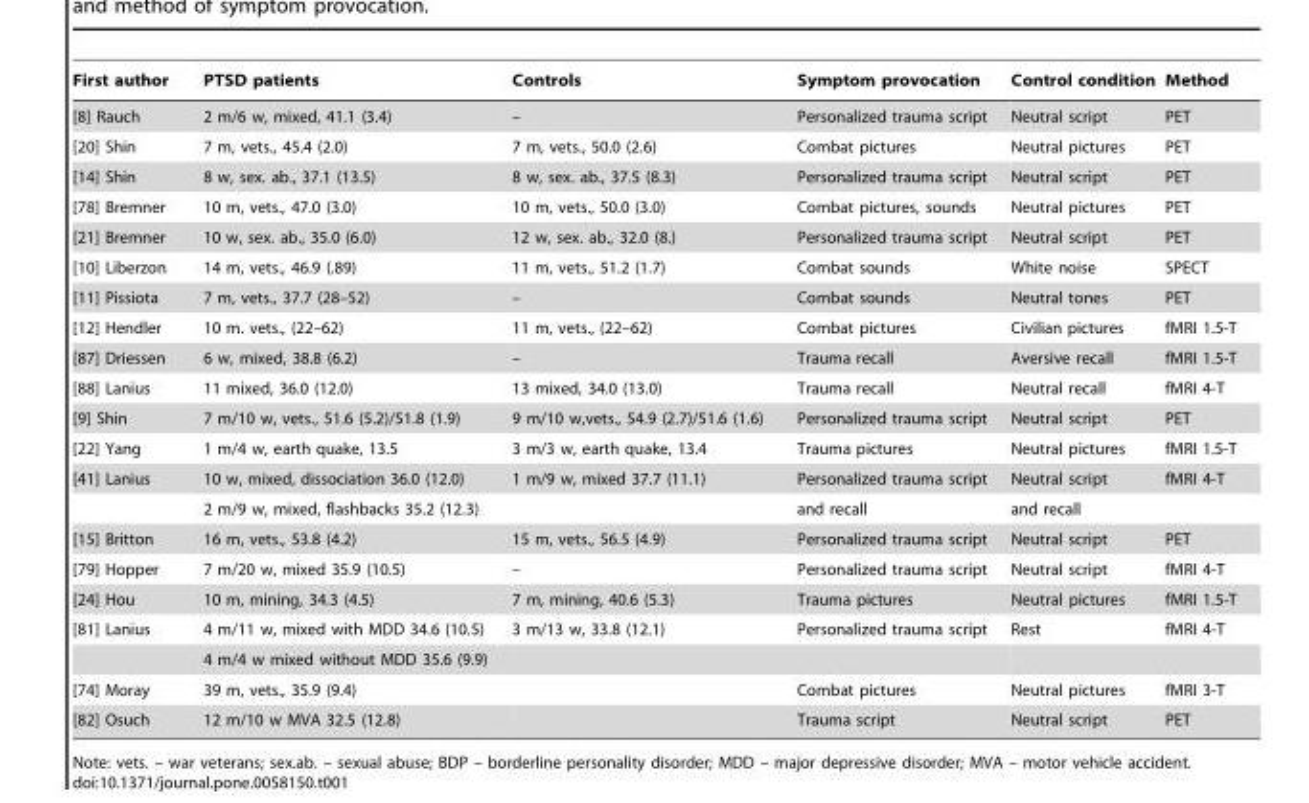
<table><thead><tr><td>First author</td><td>PTSD patients</td><td>Controls</td><td>Symptom provocation</td><td>Control condition</td><td>Method</td></tr></thead><tbody><tr><td>[8] Rauch</td><td>2 m/6 w, mixed, 41.1 (3.4)</td><td>–</td><td>Personalized trauma script</td><td>Neutral script</td><td>PET</td></tr><tr><td>[20] Shin</td><td>7 m, vets., 45.4 (2.0)</td><td>7 m, vets., 50.0 (2.6)</td><td>Combat pictures</td><td>Neutral pictures</td><td>PET</td></tr><tr><td>[14] Shin</td><td>8 w, sex. ab., 37.1 (13.5)</td><td>8 w, sex. ab., 37.5 (8.3)</td><td>Personalized trauma script</td><td>Neutral script</td><td>PET</td></tr><tr><td>[78] Bremner</td><td>10 m, vets., 47.0 (3.0)</td><td>10 m, vets., 50.0 (3.0)</td><td>Combat pictures, sounds</td><td>Neutral pictures</td><td>PET</td></tr><tr><td>[21] Bremner</td><td>10 w, sex. ab., 35.0 (6.0)</td><td>12 w, sex. ab., 32.0 (8.)</td><td>Personalized trauma script</td><td>Neutral script</td><td>PET</td></tr><tr><td>[10] Liberzon</td><td>14 m, vets., 46.9 (.89)</td><td>11 m, vets., 51.2 (1.7)</td><td>Combat sounds</td><td>White noise</td><td>SPECT</td></tr><tr><td>[11] Pissiota</td><td>7 m, vets., 37.7 (28–52)</td><td>–</td><td>Combat sounds</td><td>Neutral tones</td><td>PET</td></tr><tr><td>[12] Hendler</td><td>10 m. vets., (22–62)</td><td>11 m, vets., (22–62)</td><td>Combat pictures</td><td>Civilian pictures</td><td>fMRI 1.5-T</td></tr><tr><td>[87] Driessen</td><td>6 w, mixed, 38.8 (6.2)</td><td>–</td><td>Trauma recall</td><td>Aversive recall</td><td>fMRI 1.5-T</td></tr><tr><td>[88] Lanius</td><td>11 mixed, 36.0 (12.0)</td><td>13 mixed, 34.0 (13.0)</td><td>Trauma recall</td><td>Neutral recall</td><td>fMRI 4-T</td></tr><tr><td>[9] Shin</td><td>7 m/10 w, vets., 51.6 (5.2)/51.8 (1.9)</td><td>9 m/10 w,vets., 54.9 (2.7)/51.6 (1.6)</td><td>Personalized trauma script</td><td>Neutral script</td><td>PET</td></tr><tr><td>[22] Yang</td><td>1 m/4 w, earth quake, 13.5</td><td>3 m/3 w, earth quake, 13.4</td><td>Trauma pictures</td><td>Neutral pictures</td><td>fMRI 1.5-T</td></tr><tr><td rowspan="2">[41] Lanius</td><td>10 w, mixed, dissociation 36.0 (12.0)</td><td>1 m/9 w, mixed 37.7 (11.1)</td><td>Personalized trauma script</td><td>Neutral script</td><td>fMRI 4-T</td></tr><tr><td>2 m/9 w, mixed, flashbacks 35.2 (12.3)</td><td></td><td>and recall</td><td>and recall</td><td></td></tr><tr><td>[15] Britton</td><td>16 m, vets., 53.8 (4.2)</td><td>15 m, vets., 56.5 (4.9)</td><td>Personalized trauma script</td><td>Neutral script</td><td>PET</td></tr><tr><td>[79] Hopper</td><td>7 m/20 w, mixed 35.9 (10.5)</td><td>–</td><td>Personalized trauma script</td><td>Neutral script</td><td>fMRI 4-T</td></tr><tr><td>[24] Hou</td><td>10 m, mining, 34.3 (4.5)</td><td>7 m, mining, 40.6 (5.3)</td><td>Trauma pictures</td><td>Neutral pictures</td><td>fMRI 1.5-T</td></tr><tr><td rowspan="2">[81] Lanius</td><td>4 m/11 w, mixed with MDD 34.6 (10.5)</td><td>3 m/13 w, 33.8 (12.1)</td><td>Personalized trauma script</td><td>Rest</td><td>fMRI 4-T</td></tr><tr><td>4 m/4 w mixed without MDD 35.6 (9.9)</td><td></td><td></td><td></td><td></td></tr><tr><td>[74] Moray</td><td>39 m, vets., 35.9 (9.4)</td><td></td><td>Combat pictures</td><td>Neutral pictures</td><td>fMRI 3-T</td></tr><tr><td>[82] Osuch</td><td>12 m/10 w MVA 32.5 (12.8)</td><td></td><td>Trauma script</td><td>Neutral script</td><td>PET</td></tr></tbody></table>